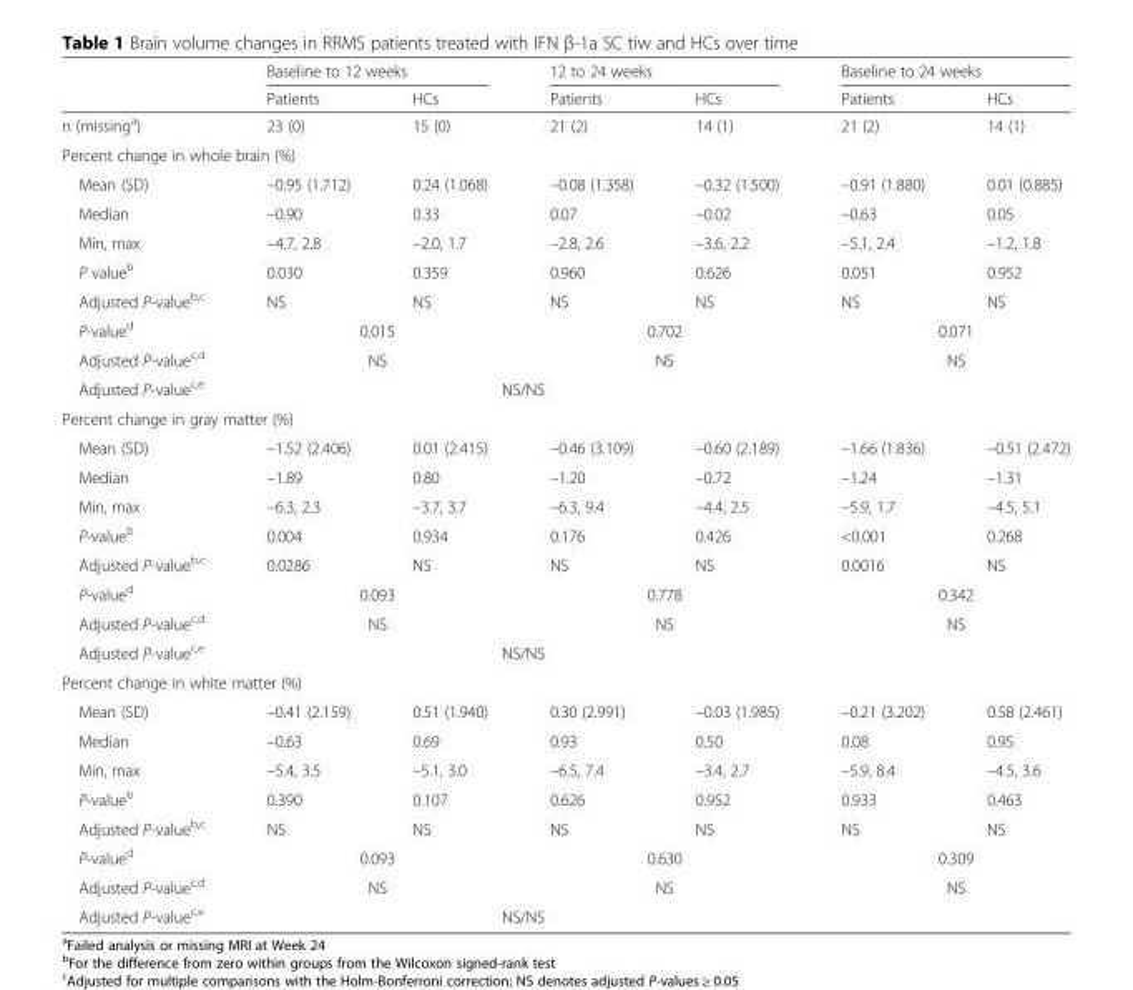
<table><thead><tr><td rowspan="2"></td><td colspan="2">Baseline to 12 weeks</td><td colspan="2">12 to 24 weeks</td><td colspan="2">Baseline to 24 weeks</td></tr><tr><td>Patients</td><td>HCs</td><td>Patients</td><td>HCs</td><td>Patients</td><td>HCs</td></tr></thead><tbody><tr><td>n (missing<sup>a</sup>)</td><td>23 (0)</td><td>15 (0)</td><td>21 (2)</td><td>14 (1)</td><td>21 (2)</td><td>14 (1)</td></tr><tr><td colspan="7">Percent change in whole brain (%)</td></tr><tr><td>Mean (SD)</td><td>–0.95 (1.712)</td><td>0.24 (1.068)</td><td>–0.08 (1.358)</td><td>–0.32 (1.500)</td><td>–0.91 (1.880)</td><td>0.01 (0.885)</td></tr><tr><td>Median</td><td>–0.90</td><td>0.33</td><td>0.07</td><td>–0.02</td><td>–0.63</td><td>0.05</td></tr><tr><td>Min, max</td><td>–4.7, 2.8</td><td>–2.0, 1.7</td><td>–2.8, 2.6</td><td>–3.6, 2.2</td><td>–5.1, 2.4</td><td>–1.2, 1.8</td></tr><tr><td>P value<sup>b</sup></td><td>0.030</td><td>0.359</td><td>0.960</td><td>0.626</td><td>0.051</td><td>0.952</td></tr><tr><td>Adjusted P-value<sup>b,c</sup></td><td>NS</td><td>NS</td><td>NS</td><td>NS</td><td>NS</td><td>NS</td></tr><tr><td>P-value<sup>d</sup></td><td colspan="2">0.015</td><td colspan="2">0.702</td><td colspan="2">0.071</td></tr><tr><td>Adjusted P-value<sup>c,d</sup></td><td colspan="2">NS</td><td colspan="2">NS</td><td colspan="2">NS</td></tr><tr><td>Adjusted P-value<sup>c,e</sup></td><td colspan="4">NS/NS</td><td colspan="2"></td></tr><tr><td colspan="7">Percent change in gray matter (%)</td></tr><tr><td>Mean (SD)</td><td>–1.52 (2.406)</td><td>0.01 (2.415)</td><td>–0.46 (3.109)</td><td>–0.60 (2.189)</td><td>–1.66 (1.836)</td><td>–0.51 (2.472)</td></tr><tr><td>Median</td><td>–1.89</td><td>0.80</td><td>–1.20</td><td>–0.72</td><td>–1.24</td><td>–1.31</td></tr><tr><td>Min, max</td><td>–6.3, 2.3</td><td>–3.7, 3.7</td><td>–6.3, 9.4</td><td>–4.4, 2.5</td><td>–5.9, 1.7</td><td>–4.5, 5.1</td></tr><tr><td>P-value<sup>b</sup></td><td>0.004</td><td>0.934</td><td>0.176</td><td>0.426</td><td>&lt;0.001</td><td>0.268</td></tr><tr><td>Adjusted P-value<sup>b,c</sup></td><td>0.0286</td><td>NS</td><td>NS</td><td>NS</td><td>0.0016</td><td>NS</td></tr><tr><td>P-value<sup>d</sup></td><td colspan="2">0.093</td><td colspan="2">0.778</td><td colspan="2">0.342</td></tr><tr><td>Adjusted P-value<sup>c,d</sup></td><td colspan="2">NS</td><td colspan="2">NS</td><td colspan="2">NS</td></tr><tr><td>Adjusted P-value<sup>c,e</sup></td><td colspan="4">NS/NS</td><td colspan="2"></td></tr><tr><td colspan="7">Percent change in white matter (%)</td></tr><tr><td>Mean (SD)</td><td>–0.41 (2.159)</td><td>0.51 (1.940)</td><td>0.30 (2.991)</td><td>–0.03 (1.985)</td><td>–0.21 (3.202)</td><td>0.58 (2.461)</td></tr><tr><td>Median</td><td>–0.63</td><td>0.69</td><td>0.93</td><td>0.50</td><td>0.08</td><td>0.95</td></tr><tr><td>Min, max</td><td>–5.4, 3.5</td><td>–5.1, 3.0</td><td>–6.5, 7.4</td><td>–3.4, 2.7</td><td>–5.9, 8.4</td><td>–4.5, 3.6</td></tr><tr><td>P-value<sup>b</sup></td><td>0.390</td><td>0.107</td><td>0.626</td><td>0.952</td><td>0.933</td><td>0.463</td></tr><tr><td>Adjusted P-value<sup>b,c</sup></td><td>NS</td><td>NS</td><td>NS</td><td>NS</td><td>NS</td><td>NS</td></tr><tr><td>P-value<sup>d</sup></td><td colspan="2">0.093</td><td colspan="2">0.630</td><td colspan="2">0.309</td></tr><tr><td>Adjusted P-value<sup>c,d</sup></td><td colspan="2">NS</td><td colspan="2">NS</td><td colspan="2">NS</td></tr><tr><td>Adjusted P-value<sup>c,e</sup></td><td colspan="4">NS/NS</td><td colspan="2"></td></tr></tbody></table>